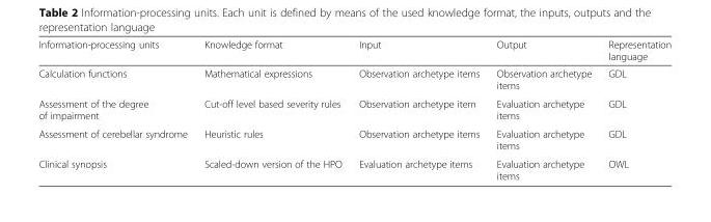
<table><thead><tr><td>Information-processing units</td><td>Knowledge format</td><td>Input</td><td>Output</td><td>Representation language</td></tr></thead><tbody><tr><td>Calculation functions</td><td>Mathematical expressions</td><td>Observation archetype items</td><td>Observation archetype items</td><td>GDL</td></tr><tr><td>Assessment of the degree of impairment</td><td>Cut-off level based severity rules</td><td>Observation archetype item</td><td>Evaluation archetype items</td><td>GDL</td></tr><tr><td>Assessment of cerebellar syndrome</td><td>Heuristic rules</td><td>Observation archetype items</td><td>Evaluation archetype items</td><td>GDL</td></tr><tr><td>Clinical synopsis</td><td>Scaled-down version of the HPO</td><td>Evaluation archetype items</td><td>Evaluation archetype items</td><td>OWL</td></tr></tbody></table>